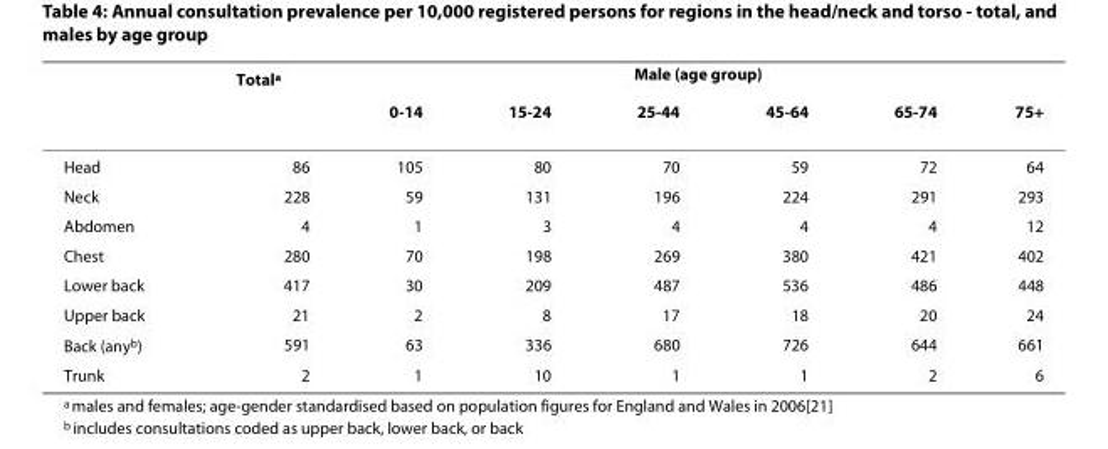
<table><thead><tr><td rowspan="2"></td><td rowspan="2">Total<sup>a</sup></td><td colspan="6">Male (age group)</td></tr><tr><td>0-14</td><td>15-24</td><td>25-44</td><td>45-64</td><td>65-74</td><td>75+</td></tr></thead><tbody><tr><td>Head</td><td>86</td><td>105</td><td>80</td><td>70</td><td>59</td><td>72</td><td>64</td></tr><tr><td>Neck</td><td>228</td><td>59</td><td>131</td><td>196</td><td>224</td><td>291</td><td>293</td></tr><tr><td>Abdomen</td><td>4</td><td>1</td><td>3</td><td>4</td><td>4</td><td>4</td><td>12</td></tr><tr><td>Chest</td><td>280</td><td>70</td><td>198</td><td>269</td><td>380</td><td>421</td><td>402</td></tr><tr><td>Lower back</td><td>417</td><td>30</td><td>209</td><td>487</td><td>536</td><td>486</td><td>448</td></tr><tr><td>Upper back</td><td>21</td><td>2</td><td>8</td><td>17</td><td>18</td><td>20</td><td>24</td></tr><tr><td>Back (any<sup>b</sup>)</td><td>591</td><td>63</td><td>336</td><td>680</td><td>726</td><td>644</td><td>661</td></tr><tr><td>Trunk</td><td>2</td><td>1</td><td>10</td><td>1</td><td>1</td><td>2</td><td>6</td></tr></tbody></table>